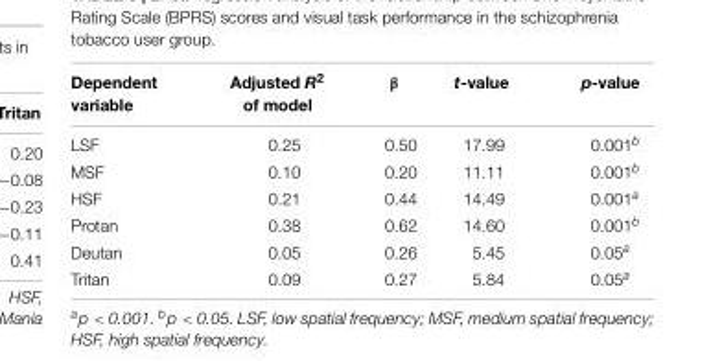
<table><thead><tr><td>Dependent variable</td><td>Adjusted R<sup>2</sup> of model</td><td>β</td><td>t-value</td><td>p-value</td></tr></thead><tbody><tr><td>LSF</td><td>0.25</td><td>0.50</td><td>17.99</td><td>0.001<sup>b</sup></td></tr><tr><td>MSF</td><td>0.10</td><td>0.20</td><td>11.11</td><td>0.001<sup>b</sup></td></tr><tr><td>HSF</td><td>0.21</td><td>0.44</td><td>14.49</td><td>0.001<sup>a</sup></td></tr><tr><td>Protan</td><td>0.38</td><td>0.62</td><td>14.60</td><td>0.001<sup>b</sup></td></tr><tr><td>Deutan</td><td>0.05</td><td>0.26</td><td>5.45</td><td>0.05<sup>a</sup></td></tr><tr><td>Tritan</td><td>0.09</td><td>0.27</td><td>5.84</td><td>0.05<sup>a</sup></td></tr></tbody></table>